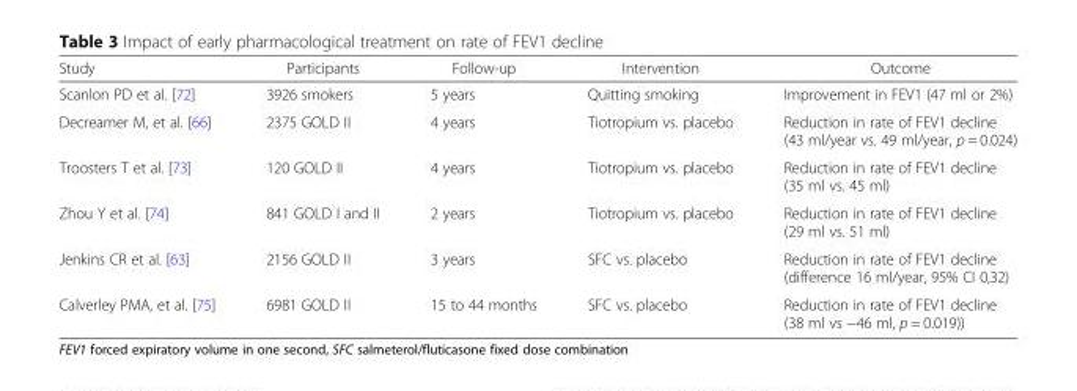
<table><thead><tr><td>Study</td><td>Participants</td><td>Follow-up</td><td>Intervention</td><td>Outcome</td></tr></thead><tbody><tr><td>Scanlon PD et al. [72]</td><td>3926 smokers</td><td>5 years</td><td>Quitting smoking</td><td>Improvement in FEV1 (47 ml or 2%)</td></tr><tr><td>Decreamer M, et al. [66]</td><td>2375 GOLD II</td><td>4 years</td><td>Tiotropium vs. placebo</td><td>Reduction in rate of FEV1 decline (43 ml/year vs. 49 ml/year, p = 0.024)</td></tr><tr><td>Troosters T et al. [73]</td><td>120 GOLD II</td><td>4 years</td><td>Tiotropium vs. placebo</td><td>Reduction in rate of FEV1 decline (35 ml vs. 45 ml)</td></tr><tr><td>Zhou Y et al. [74]</td><td>841 GOLD I and II</td><td>2 years</td><td>Tiotropium vs. placebo</td><td>Reduction in rate of FEV1 decline (29 ml vs. 51 ml)</td></tr><tr><td>Jenkins CR et al. [63]</td><td>2156 GOLD II</td><td>3 years</td><td>SFC vs. placebo</td><td>Reduction in rate of FEV1 decline (difference 16 ml/year, 95% CI 0,32)</td></tr><tr><td>Calverley PMA, et al. [75]</td><td>6981 GOLD II</td><td>15 to 44 months</td><td>SFC vs. placebo</td><td>Reduction in rate of FEV1 decline (38 ml vs −46 ml, p = 0.019))</td></tr></tbody></table>